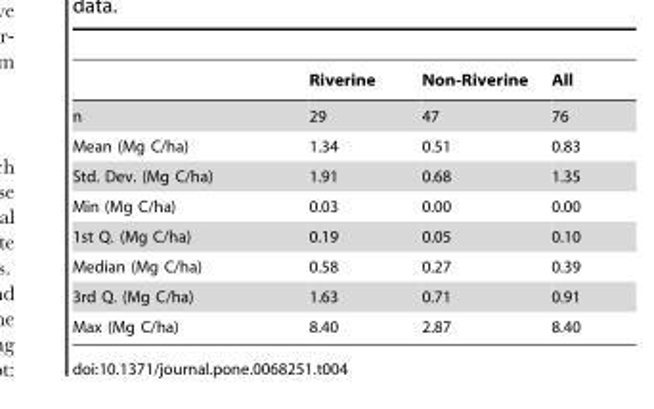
<table><thead><tr><td></td><td>Riverine</td><td>Non-Riverine</td><td>All</td></tr></thead><tbody><tr><td>n</td><td>29</td><td>47</td><td>76</td></tr><tr><td>Mean (Mg C/ha)</td><td>1.34</td><td>0.51</td><td>0.83</td></tr><tr><td>Std. Dev. (Mg C/ha)</td><td>1.91</td><td>0.68</td><td>1.35</td></tr><tr><td>Min (Mg C/ha)</td><td>0.03</td><td>0.00</td><td>0.00</td></tr><tr><td>1st Q. (Mg C/ha)</td><td>0.19</td><td>0.05</td><td>0.10</td></tr><tr><td>Median (Mg C/ha)</td><td>0.58</td><td>0.27</td><td>0.39</td></tr><tr><td>3rd Q. (Mg C/ha)</td><td>1.63</td><td>0.71</td><td>0.91</td></tr><tr><td>Max (Mg C/ha)</td><td>8.40</td><td>2.87</td><td>8.40</td></tr></tbody></table>